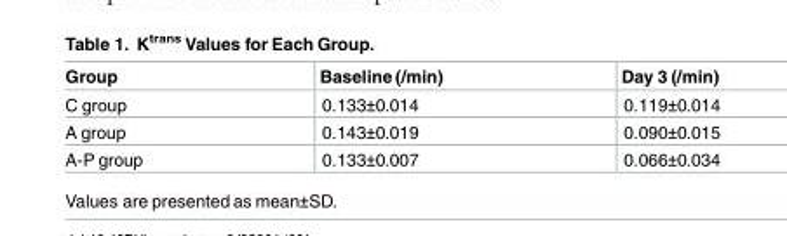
<table><thead><tr><td>Group</td><td>Baseline (/min)</td><td>Day 3 (/min)</td></tr></thead><tbody><tr><td>C group</td><td>0.133±0.014</td><td>0.119±0.014</td></tr><tr><td>A group</td><td>0.143±0.019</td><td>0.090±0.015</td></tr><tr><td>A-P group</td><td>0.133±0.007</td><td>0.066±0.034</td></tr></tbody></table>